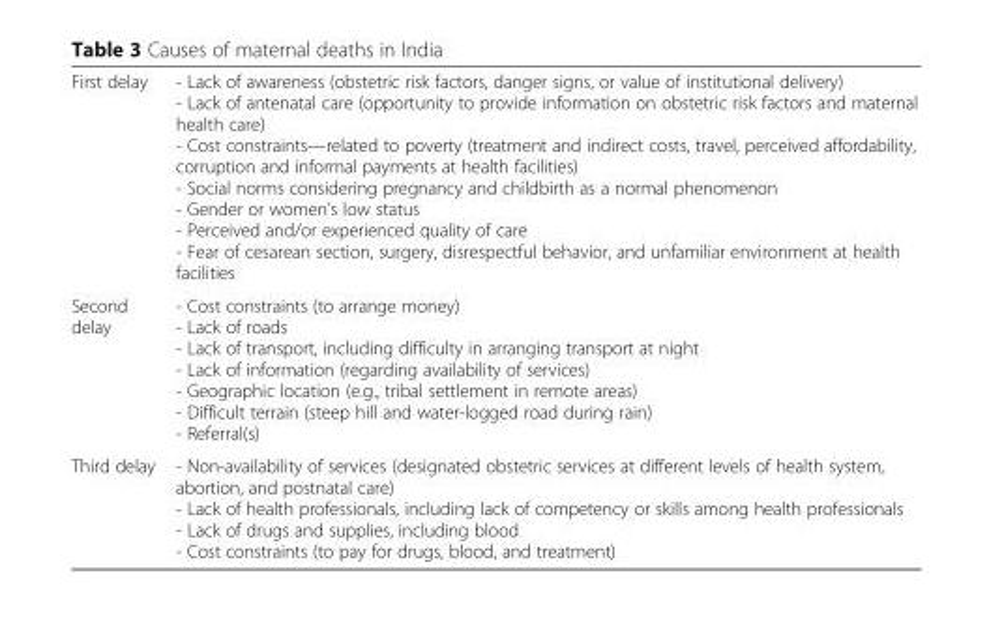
<table><tbody><tr><td>First delay</td><td>- Lack of awareness (obstetric risk factors, danger signs, or value of institutional delivery) - Lack of antenatal care (opportunity to provide information on obstetric risk factors and maternal health care) - Cost constraints—related to poverty (treatment and indirect costs, travel, perceived affordability, corruption and informal payments at health facilities) - Social norms considering pregnancy and childbirth as a normal phenomenon - Gender or women’s low status - Perceived and/or experienced quality of care - Fear of cesarean section, surgery, disrespectful behavior, and unfamiliar environment at health facilities</td></tr><tr><td>Second delay</td><td>- Cost constraints (to arrange money) - Lack of roads - Lack of transport, including difficulty in arranging transport at night - Lack of information (regarding availability of services) - Geographic location (e.g., tribal settlement in remote areas) - Difficult terrain (steep hill and water-logged road during rain) - Referral(s)</td></tr><tr><td>Third delay</td><td>- Non-availability of services (designated obstetric services at different levels of health system, abortion, and postnatal care) - Lack of health professionals, including lack of competency or skills among health professionals - Lack of drugs and supplies, including blood - Cost constraints (to pay for drugs, blood, and treatment)</td></tr></tbody></table>